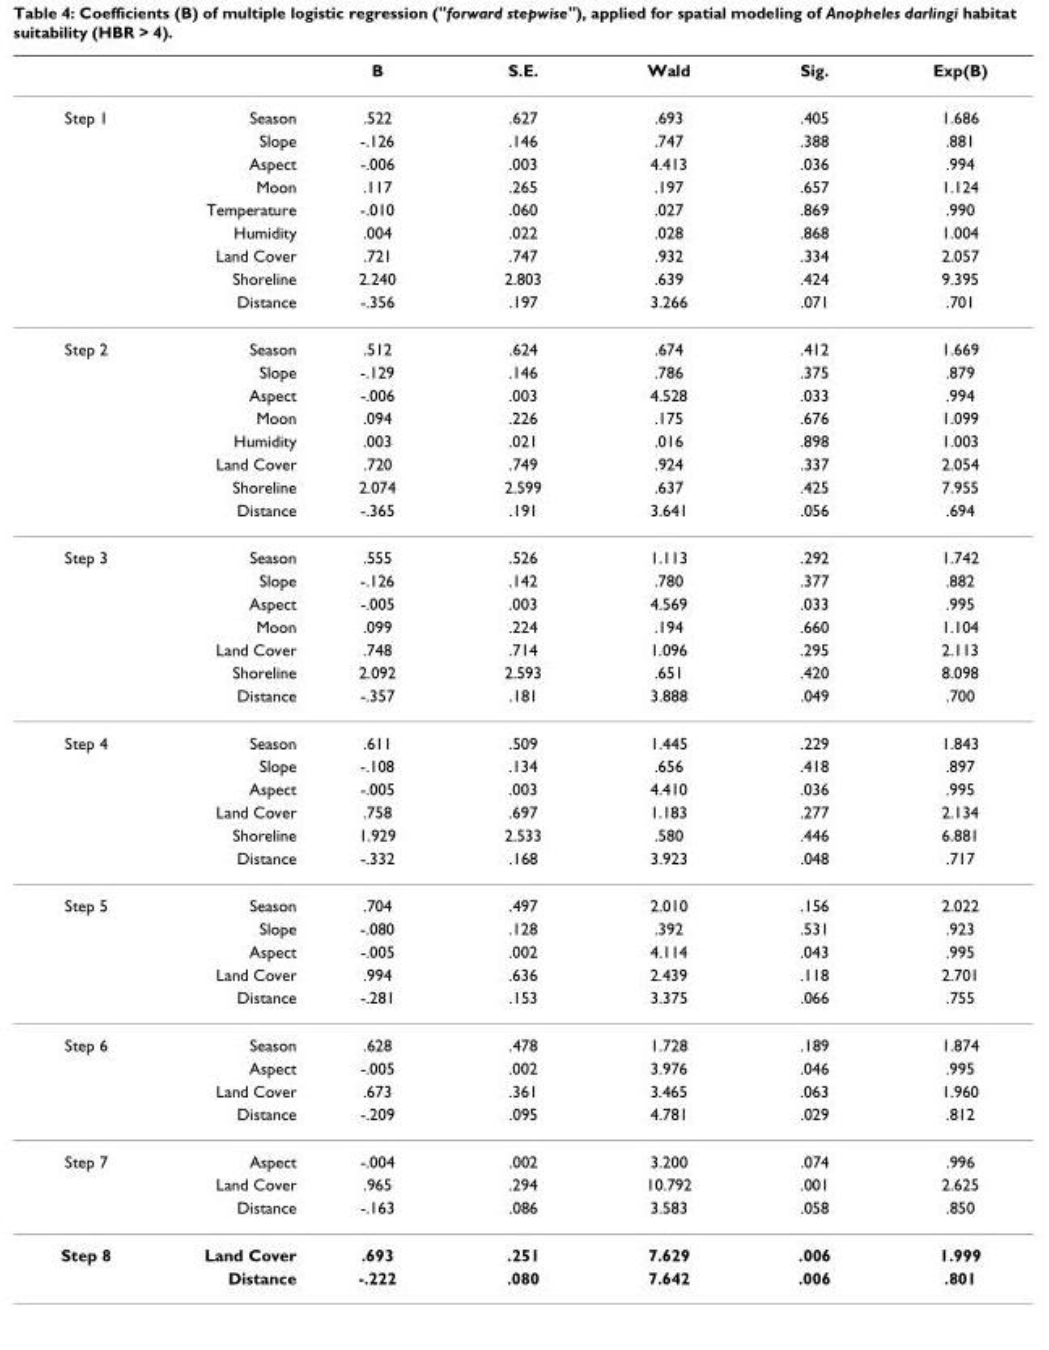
<table><thead><tr><td></td><td></td><td>B</td><td>S.E.</td><td>Wald</td><td>Sig.</td><td>Exp(B)</td></tr></thead><tbody><tr><td rowspan="9">Step 1</td><td>Season</td><td>.522</td><td>.627</td><td>.693</td><td>.405</td><td>1.686</td></tr><tr><td>Slope</td><td>-.126</td><td>.146</td><td>.747</td><td>.388</td><td>.881</td></tr><tr><td>Aspect</td><td>-.006</td><td>.003</td><td>4.413</td><td>.036</td><td>.994</td></tr><tr><td>Moon</td><td>.117</td><td>.265</td><td>.197</td><td>.657</td><td>1.124</td></tr><tr><td>Temperature</td><td>-.010</td><td>.060</td><td>.027</td><td>.869</td><td>.990</td></tr><tr><td>Humidity</td><td>.004</td><td>.022</td><td>.028</td><td>.868</td><td>1.004</td></tr><tr><td>Land Cover</td><td>.721</td><td>.747</td><td>.932</td><td>.334</td><td>2.057</td></tr><tr><td>Shoreline</td><td>2.240</td><td>2.803</td><td>.639</td><td>.424</td><td>9.395</td></tr><tr><td>Distance</td><td>-.356</td><td>.197</td><td>3.266</td><td>.071</td><td>.701</td></tr><tr><td rowspan="8">Step 2</td><td>Season</td><td>.512</td><td>.624</td><td>.674</td><td>.412</td><td>1.669</td></tr><tr><td>Slope</td><td>-.129</td><td>.146</td><td>.786</td><td>.375</td><td>.879</td></tr><tr><td>Aspect</td><td>-.006</td><td>.003</td><td>4.528</td><td>.033</td><td>.994</td></tr><tr><td>Moon</td><td>.094</td><td>.226</td><td>.175</td><td>.676</td><td>1.099</td></tr><tr><td>Humidity</td><td>.003</td><td>.021</td><td>.016</td><td>.898</td><td>1.003</td></tr><tr><td>Land Cover</td><td>.720</td><td>.749</td><td>.924</td><td>.337</td><td>2.054</td></tr><tr><td>Shoreline</td><td>2.074</td><td>2.599</td><td>.637</td><td>.425</td><td>7.955</td></tr><tr><td>Distance</td><td>-.365</td><td>.191</td><td>3.641</td><td>.056</td><td>.694</td></tr><tr><td rowspan="7">Step 3</td><td>Season</td><td>.555</td><td>.526</td><td>1.113</td><td>.292</td><td>1.742</td></tr><tr><td>Slope</td><td>-.126</td><td>.142</td><td>.780</td><td>.377</td><td>.882</td></tr><tr><td>Aspect</td><td>-.005</td><td>.003</td><td>4.569</td><td>.033</td><td>.995</td></tr><tr><td>Moon</td><td>.099</td><td>.224</td><td>.194</td><td>.660</td><td>1.104</td></tr><tr><td>Land Cover</td><td>.748</td><td>.714</td><td>1.096</td><td>.295</td><td>2.113</td></tr><tr><td>Shoreline</td><td>2.092</td><td>2.593</td><td>.651</td><td>.420</td><td>8.098</td></tr><tr><td>Distance</td><td>-.357</td><td>.181</td><td>3.888</td><td>.049</td><td>.700</td></tr><tr><td rowspan="6">Step 4</td><td>Season</td><td>.611</td><td>.509</td><td>1.445</td><td>.229</td><td>1.843</td></tr><tr><td>Slope</td><td>-.108</td><td>.134</td><td>.656</td><td>.418</td><td>.897</td></tr><tr><td>Aspect</td><td>-.005</td><td>.003</td><td>4.410</td><td>.036</td><td>.995</td></tr><tr><td>Land Cover</td><td>.758</td><td>.697</td><td>1.183</td><td>.277</td><td>2.134</td></tr><tr><td>Shoreline</td><td>1.929</td><td>2.533</td><td>.580</td><td>.446</td><td>6.881</td></tr><tr><td>Distance</td><td>-.332</td><td>.168</td><td>3.923</td><td>.048</td><td>.717</td></tr><tr><td rowspan="5">Step 5</td><td>Season</td><td>.704</td><td>.497</td><td>2.010</td><td>.156</td><td>2.022</td></tr><tr><td>Slope</td><td>-.080</td><td>.128</td><td>.392</td><td>.531</td><td>.923</td></tr><tr><td>Aspect</td><td>-.005</td><td>.002</td><td>4.114</td><td>.043</td><td>.995</td></tr><tr><td>Land Cover</td><td>.994</td><td>.636</td><td>2.439</td><td>.118</td><td>2.701</td></tr><tr><td>Distance</td><td>-.281</td><td>.153</td><td>3.375</td><td>.066</td><td>.755</td></tr><tr><td rowspan="4">Step 6</td><td>Season</td><td>.628</td><td>.478</td><td>1.728</td><td>.189</td><td>1.874</td></tr><tr><td>Aspect</td><td>-.005</td><td>.002</td><td>3.976</td><td>.046</td><td>.995</td></tr><tr><td>Land Cover</td><td>.673</td><td>.361</td><td>3.465</td><td>.063</td><td>1.960</td></tr><tr><td>Distance</td><td>-.209</td><td>.095</td><td>4.781</td><td>.029</td><td>.812</td></tr><tr><td rowspan="3">Step 7</td><td>Aspect</td><td>-.004</td><td>.002</td><td>3.200</td><td>.074</td><td>.996</td></tr><tr><td>Land Cover</td><td>.965</td><td>.294</td><td>10.792</td><td>.001</td><td>2.625</td></tr><tr><td>Distance</td><td>-.163</td><td>.086</td><td>3.583</td><td>.058</td><td>.850</td></tr><tr><td rowspan="2">Step 8</td><td>Land Cover</td><td>.693</td><td>.251</td><td>7.629</td><td>.006</td><td>1.999</td></tr><tr><td>Distance</td><td>-.222</td><td>.080</td><td>7.642</td><td>.006</td><td>.801</td></tr></tbody></table>